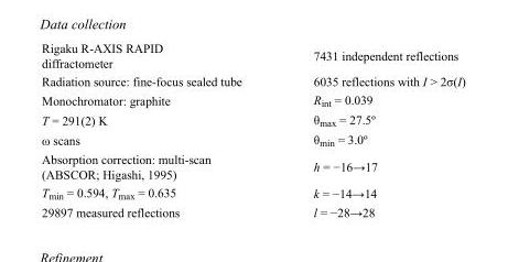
<table><tbody><tr><td>Rigaku R-AXIS RAPID diffractometer</td><td>7431 independent reflections</td></tr><tr><td>Radiation source: fine-focus sealed tube</td><td>6035 reflections with I &gt; 2σ(I)</td></tr><tr><td>Monochromator: graphite</td><td>R<sub>int</sub> = 0.039</td></tr><tr><td>T = 291(2) K</td><td>θ<sub>max</sub> = 27.5º</td></tr><tr><td>ω scans</td><td>θ<sub>min</sub> = 3.0º</td></tr><tr><td>Absorption correction: multi-scan (ABSCOR; Higashi, 1995)</td><td>h = −16→17</td></tr><tr><td>T<sub>min</sub> = 0.594, T<sub>max</sub> = 0.635</td><td>k = −14→14</td></tr><tr><td>29897 measured reflections</td><td>l = −28→28</td></tr></tbody></table>